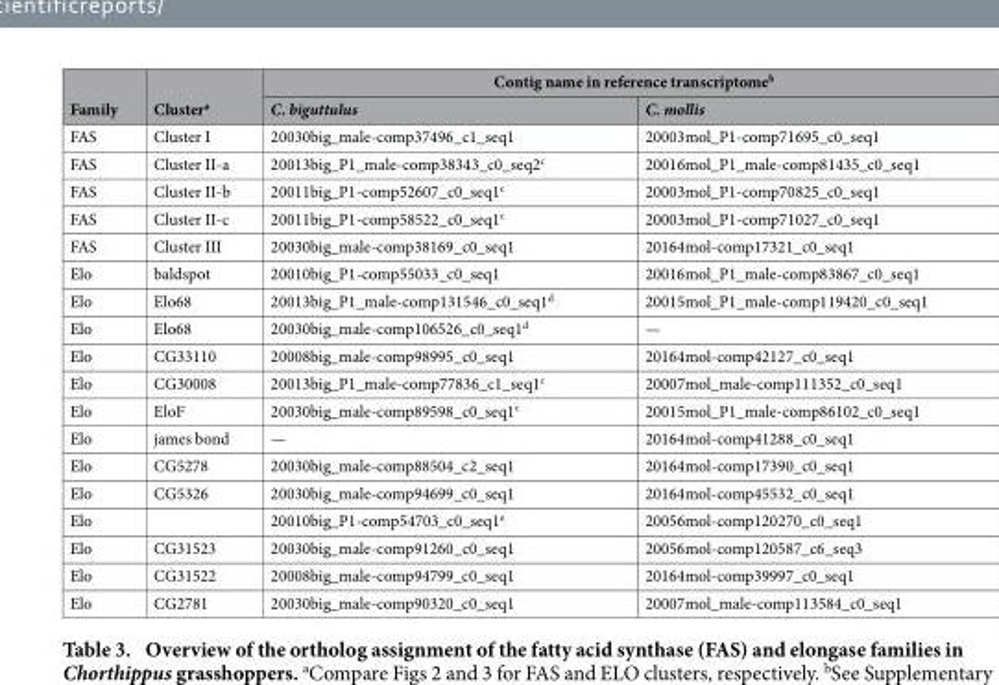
<table><thead><tr><td rowspan="2">Family</td><td rowspan="2">Cluster<sup>a</sup></td><td colspan="2">Contig name in reference transcriptome<sup>b</sup></td></tr><tr><td>C. biguttulus</td><td>C. mollis</td></tr></thead><tbody><tr><td>FAS</td><td>Cluster I</td><td>20030big_male-comp37496_c1_seq1</td><td>20003mol_P1-comp71695_c0_seq1</td></tr><tr><td>FAS</td><td>Cluster II-a</td><td>20013big_P1_male-comp38343_c0_seq2<sup>c</sup></td><td>20016mol_P1_male-comp81435_c0_seq1</td></tr><tr><td>FAS</td><td>Cluster II-b</td><td>20011big_P1-comp52607_c0_seq1<sup>c</sup></td><td>20003mol_P1-comp70825_c0_seq1</td></tr><tr><td>FAS</td><td>Cluster II-c</td><td>20011big_P1-comp58522_c0_seq1<sup>c</sup></td><td>20003mol_P1-comp71027_c0_seq1</td></tr><tr><td>FAS</td><td>Cluster III</td><td>20030big_male-comp38169_c0_seq1</td><td>20164mol-comp17321_c0_seq1</td></tr><tr><td>Elo</td><td>baldspot</td><td>20010big_P1-comp55033_c0_seq1</td><td>20016mol_P1_male-comp83867_c0_seq1</td></tr><tr><td>Elo</td><td>Elo68</td><td>20013big_P1_male-comp131546_c0_seq1<sup>d</sup></td><td>20015mol_P1_male-comp119420_c0_seq1</td></tr><tr><td>Elo</td><td>Elo68</td><td>20030big_male-comp106526_c0_seq1<sup>d</sup></td><td>—</td></tr><tr><td>Elo</td><td>CG33110</td><td>20008big_male-comp98995_c0_seq1</td><td>20164mol-comp42127_c0_seq1</td></tr><tr><td>Elo</td><td>CG30008</td><td>20013big_P1_male-comp77836_c1_seq1<sup>c</sup></td><td>20007mol_male-comp111352_c0_seq1</td></tr><tr><td>Elo</td><td>EloF</td><td>20030big_male-comp89598_c0_seq1<sup>c</sup></td><td>20015mol_P1_male-comp86102_c0_seq1</td></tr><tr><td>Elo</td><td>james bond</td><td>—</td><td>20164mol-comp41288_c0_seq1</td></tr><tr><td>Elo</td><td>CG5278</td><td>20030big_male-comp88504_c2_seq1</td><td>20164mol-comp17390_c0_seq1</td></tr><tr><td>Elo</td><td>CG5326</td><td>20030big_male-comp94699_c0_seq1</td><td>20164mol-comp45532_c0_seq1</td></tr><tr><td>Elo</td><td></td><td>20010big_P1-comp54703_c0_seq1<sup>e</sup></td><td>20056mol-comp120270_c0_seq1</td></tr><tr><td>Elo</td><td>CG31523</td><td>20030big_male-comp91260_c0_seq1</td><td>20056mol-comp120587_c6_seq3</td></tr><tr><td>Elo</td><td>CG31522</td><td>20008big_male-comp94799_c0_seq1</td><td>20164mol-comp39997_c0_seq1</td></tr><tr><td>Elo</td><td>CG2781</td><td>20030big_male-comp90320_c0_seq1</td><td>20007mol_male-comp113584_c0_seq1</td></tr></tbody></table>